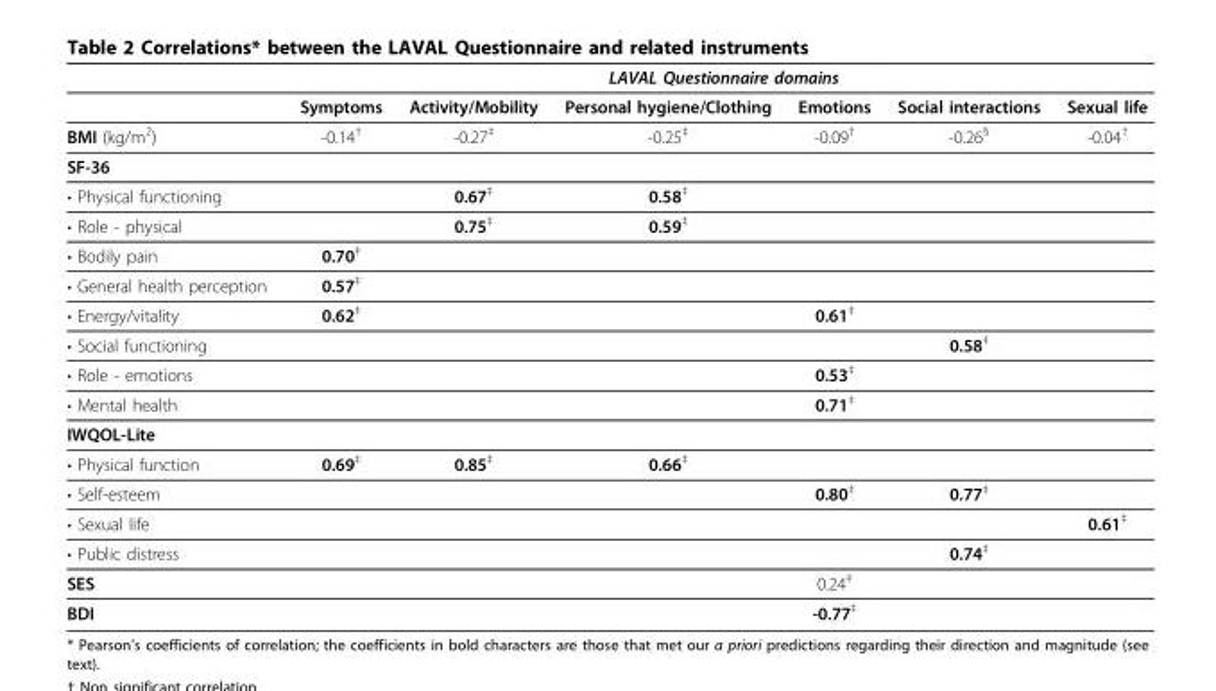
<table><thead><tr><td rowspan="2"></td><td colspan="6">LAVAL Questionnaire domains</td></tr><tr><td>Symptoms</td><td>Activity/Mobility</td><td>Personal hygiene/Clothing</td><td>Emotions</td><td>Social interactions</td><td>Sexual life</td></tr></thead><tbody><tr><td>BMI (kg/m<sup>2</sup>)</td><td>-0.14<sup>†</sup></td><td>-0.27<sup>‡</sup></td><td>-0.25<sup>‡</sup></td><td>-0.09<sup>†</sup></td><td>-0.26<sup>§</sup></td><td>-0.04<sup>†</sup></td></tr><tr><td colspan="7">SF-36</td></tr><tr><td>• Physical functioning</td><td></td><td>0.67<sup>‡</sup></td><td>0.58<sup>‡</sup></td><td></td><td></td><td></td></tr><tr><td>• Role - physical</td><td></td><td>0.75<sup>‡</sup></td><td>0.59<sup>‡</sup></td><td></td><td></td><td></td></tr><tr><td>• Bodily pain</td><td>0.70<sup>‡</sup></td><td></td><td></td><td></td><td></td><td></td></tr><tr><td>• General health perception</td><td>0.57<sup>‡</sup></td><td></td><td></td><td></td><td></td><td></td></tr><tr><td>• Energy/vitality</td><td>0.62<sup>‡</sup></td><td></td><td></td><td>0.61<sup>‡</sup></td><td></td><td></td></tr><tr><td>• Social functioning</td><td></td><td></td><td></td><td></td><td>0.58<sup>‡</sup></td><td></td></tr><tr><td>• Role - emotions</td><td></td><td></td><td></td><td>0.53<sup>‡</sup></td><td></td><td></td></tr><tr><td>• Mental health</td><td></td><td></td><td></td><td>0.71<sup>‡</sup></td><td></td><td></td></tr><tr><td colspan="7">IWQOL-Lite</td></tr><tr><td>• Physical function</td><td>0.69<sup>‡</sup></td><td>0.85<sup>‡</sup></td><td>0.66<sup>‡</sup></td><td></td><td></td><td></td></tr><tr><td>• Self-esteem</td><td></td><td></td><td></td><td>0.80<sup>‡</sup></td><td>0.77<sup>‡</sup></td><td></td></tr><tr><td>• Sexual life</td><td></td><td></td><td></td><td></td><td></td><td>0.61<sup>‡</sup></td></tr><tr><td>• Public distress</td><td></td><td></td><td></td><td></td><td>0.74<sup>‡</sup></td><td></td></tr><tr><td>SES</td><td></td><td></td><td></td><td>0.24<sup>‡</sup></td><td></td><td></td></tr><tr><td>BDI</td><td></td><td></td><td></td><td>-0.77<sup>‡</sup></td><td></td><td></td></tr></tbody></table>